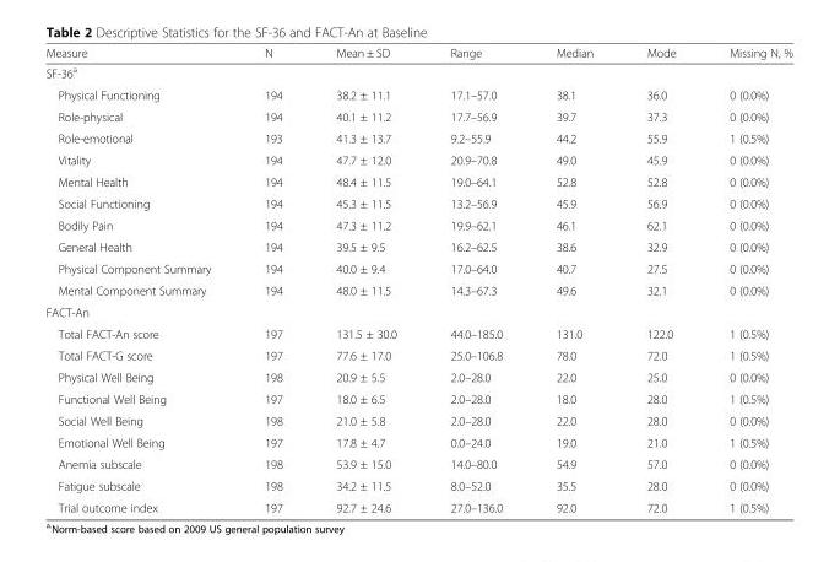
<table><thead><tr><td>Measure</td><td>N</td><td>Mean ± SD</td><td>Range</td><td>Median</td><td>Mode</td><td>Missing N, %</td></tr></thead><tbody><tr><td colspan="7">SF-36<sup>a</sup></td></tr><tr><td>Physical Functioning</td><td>194</td><td>38.2 ± 11.1</td><td>17.1–57.0</td><td>38.1</td><td>36.0</td><td>0 (0.0%)</td></tr><tr><td>Role-physical</td><td>194</td><td>40.1 ± 11.2</td><td>17.7–56.9</td><td>39.7</td><td>37.3</td><td>0 (0.0%)</td></tr><tr><td>Role-emotional</td><td>193</td><td>41.3 ± 13.7</td><td>9.2–55.9</td><td>44.2</td><td>55.9</td><td>1 (0.5%)</td></tr><tr><td>Vitality</td><td>194</td><td>47.7 ± 12.0</td><td>20.9–70.8</td><td>49.0</td><td>45.9</td><td>0 (0.0%)</td></tr><tr><td>Mental Health</td><td>194</td><td>48.4 ± 11.5</td><td>19.0–64.1</td><td>52.8</td><td>52.8</td><td>0 (0.0%)</td></tr><tr><td>Social Functioning</td><td>194</td><td>45.3 ± 11.5</td><td>13.2–56.9</td><td>45.9</td><td>56.9</td><td>0 (0.0%)</td></tr><tr><td>Bodily Pain</td><td>194</td><td>47.3 ± 11.2</td><td>19.9–62.1</td><td>46.1</td><td>62.1</td><td>0 (0.0%)</td></tr><tr><td>General Health</td><td>194</td><td>39.5 ± 9.5</td><td>16.2–62.5</td><td>38.6</td><td>32.9</td><td>0 (0.0%)</td></tr><tr><td>Physical Component Summary</td><td>194</td><td>40.0 ± 9.4</td><td>17.0–64.0</td><td>40.7</td><td>27.5</td><td>0 (0.0%)</td></tr><tr><td>Mental Component Summary</td><td>194</td><td>48.0 ± 11.5</td><td>14.3–67.3</td><td>49.6</td><td>32.1</td><td>0 (0.0%)</td></tr><tr><td colspan="7">FACT-An</td></tr><tr><td>Total FACT-An score</td><td>197</td><td>131.5 ± 30.0</td><td>44.0–185.0</td><td>131.0</td><td>122.0</td><td>1 (0.5%)</td></tr><tr><td>Total FACT-G score</td><td>197</td><td>77.6 ± 17.0</td><td>25.0–106.8</td><td>78.0</td><td>72.0</td><td>1 (0.5%)</td></tr><tr><td>Physical Well Being</td><td>198</td><td>20.9 ± 5.5</td><td>2.0–28.0</td><td>22.0</td><td>25.0</td><td>0 (0.0%)</td></tr><tr><td>Functional Well Being</td><td>197</td><td>18.0 ± 6.5</td><td>2.0–28.0</td><td>18.0</td><td>28.0</td><td>1 (0.5%)</td></tr><tr><td>Social Well Being</td><td>198</td><td>21.0 ± 5.8</td><td>2.0–28.0</td><td>22.0</td><td>28.0</td><td>0 (0.0%)</td></tr><tr><td>Emotional Well Being</td><td>197</td><td>17.8 ± 4.7</td><td>0.0–24.0</td><td>19.0</td><td>21.0</td><td>1 (0.5%)</td></tr><tr><td>Anemia subscale</td><td>198</td><td>53.9 ± 15.0</td><td>14.0–80.0</td><td>54.9</td><td>57.0</td><td>0 (0.0%)</td></tr><tr><td>Fatigue subscale</td><td>198</td><td>34.2 ± 11.5</td><td>8.0–52.0</td><td>35.5</td><td>28.0</td><td>0 (0.0%)</td></tr><tr><td>Trial outcome index</td><td>197</td><td>92.7 ± 24.6</td><td>27.0–136.0</td><td>92.0</td><td>72.0</td><td>1 (0.5%)</td></tr></tbody></table>